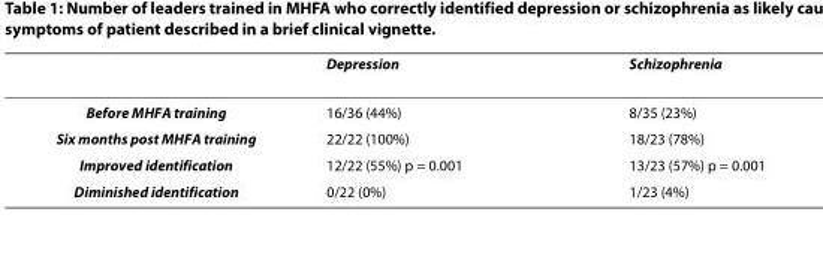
<table><thead><tr><td></td><td>Depression</td><td>Schizophrenia</td></tr></thead><tbody><tr><td>Before MHFA training</td><td>16/36 (44%)</td><td>8/35 (23%)</td></tr><tr><td>Six months post MHFA training</td><td>22/22 (100%)</td><td>18/23 (78%)</td></tr><tr><td>Improved identification</td><td>12/22 (55%) p = 0.001</td><td>13/23 (57%) p = 0.001</td></tr><tr><td>Diminished identification</td><td>0/22 (0%)</td><td>1/23 (4%)</td></tr></tbody></table>